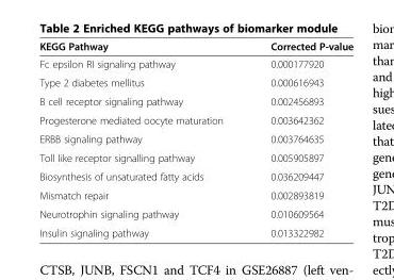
<table><thead><tr><td>KEGG Pathway</td><td>Corrected P-value</td></tr></thead><tbody><tr><td>Fc epsilon RI signaling pathway</td><td>0.000177920</td></tr><tr><td>Type 2 diabetes mellitus</td><td>0.000616943</td></tr><tr><td>B cell receptor signaling pathway</td><td>0.002456893</td></tr><tr><td>Progesterone mediated oocyte maturation</td><td>0.003642362</td></tr><tr><td>ERBB signaling pathway</td><td>0.003764635</td></tr><tr><td>Toll like receptor signalling pathway</td><td>0.005905897</td></tr><tr><td>Biosynthesis of unsaturated fatty acids</td><td>0.036209447</td></tr><tr><td>Mismatch repair</td><td>0.002893819</td></tr><tr><td>Neurotrophin signaling pathway</td><td>0.010609564</td></tr><tr><td>Insulin signaling pathway</td><td>0.013322982</td></tr></tbody></table>